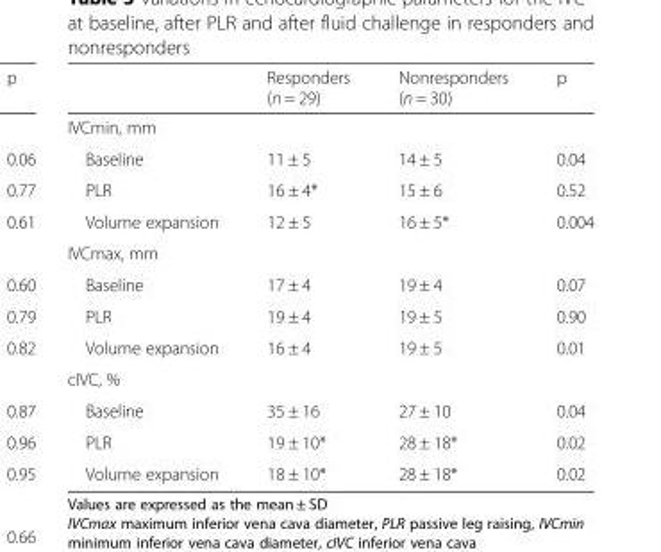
<table><thead><tr><td></td><td>Responders (n = 29)</td><td>Nonresponders (n = 30)</td><td>p</td></tr></thead><tbody><tr><td colspan="4">IVCmin, mm</td></tr><tr><td>Baseline</td><td>11 ± 5</td><td>14 ± 5</td><td>0.04</td></tr><tr><td>PLR</td><td>16 ± 4*</td><td>15 ± 6</td><td>0.52</td></tr><tr><td>Volume expansion</td><td>12 ± 5</td><td>16 ± 5*</td><td>0.004</td></tr><tr><td colspan="4">IVCmax, mm</td></tr><tr><td>Baseline</td><td>17 ± 4</td><td>19 ± 4</td><td>0.07</td></tr><tr><td>PLR</td><td>19 ± 4</td><td>19 ± 5</td><td>0.90</td></tr><tr><td>Volume expansion</td><td>16 ± 4</td><td>19 ± 5</td><td>0.01</td></tr><tr><td colspan="4">cIVC, %</td></tr><tr><td>Baseline</td><td>35 ± 16</td><td>27 ± 10</td><td>0.04</td></tr><tr><td>PLR</td><td>19 ± 10*</td><td>28 ± 18*</td><td>0.02</td></tr><tr><td>Volume expansion</td><td>18 ± 10*</td><td>28 ± 18*</td><td>0.02</td></tr></tbody></table>